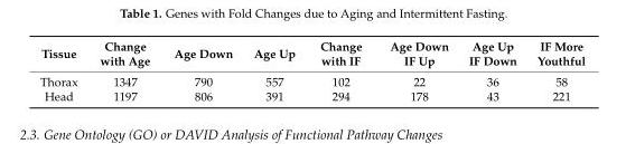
<table><thead><tr><td>Tissue</td><td>Change with Age</td><td>Age Down</td><td>Age Up</td><td>Change with IF</td><td>Age Down IF Up</td><td>Age Up IF Down</td><td>IF More Youthful</td></tr></thead><tbody><tr><td>Thorax</td><td>1347</td><td>790</td><td>557</td><td>102</td><td>22</td><td>36</td><td>58</td></tr><tr><td>Head</td><td>1197</td><td>806</td><td>391</td><td>294</td><td>178</td><td>43</td><td>221</td></tr></tbody></table>